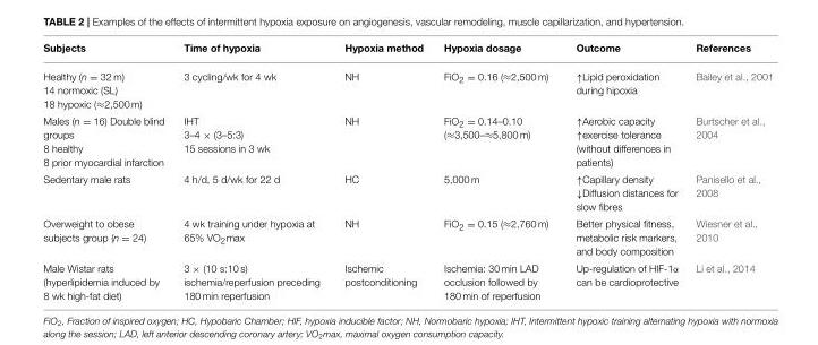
<table><thead><tr><td>Subjects</td><td>Time of hypoxia</td><td>Hypoxia method</td><td>Hypoxia dosage</td><td>Outcome</td><td>References</td></tr></thead><tbody><tr><td>Healthy (n = 32 m) 14 normoxic (SL) 18 hypoxic (≈2,500 m)</td><td>3 cycling/wk for 4 wk</td><td>NH</td><td>FiO<sub>2</sub> = 0.16 (≈2,500 m)</td><td>↑Lipid peroxidation during hipoxia</td><td>Bailey et al., 2001</td></tr><tr><td>Males (n = 16) Double blind groups 8 healthy 8 prior myocardial infarction</td><td>IHT 3–4 × (3–5:3) 15 sessions in 3 wk</td><td>NH</td><td>FiO<sub>2</sub> = 0.14–0.10 (≈3,500–≈5,800 m)</td><td>↑Aerobic capacity ↑exercise tolerance (without differences in patients)</td><td>Burtscher et al., 2004</td></tr><tr><td>Sedentary male rats</td><td>4 h/d, 5 d/wk for 22 d</td><td>HC</td><td>5,000 m</td><td>↑Capillary density ↓Diffusion distances for slow fibres</td><td>Panisello et al., 2008</td></tr><tr><td>Overweight to obese subjects group (n = 24)</td><td>4 wk training under hypoxia at 65% VO<sub>2</sub>max</td><td>NH</td><td>FiO<sub>2</sub> = 0.15 (≈2,760 m)</td><td>Better physical fitness, metabolic risk markers, and body composition</td><td>Wiesner et al., 2010</td></tr><tr><td>Male Wistar rats (hyperlipidemia induced by 8 wk high-fat diet)</td><td>3 × (10 s:10 s) ischemia/reperfusion preceding 180 min reperfusion</td><td>Ischemic postconditioning</td><td>Ischemia: 30 min LAD occlusion followed by 180 min of reperfusion</td><td>Up-regulation of HIF-1α can be cardioprotective</td><td>Li et al., 2014</td></tr></tbody></table>